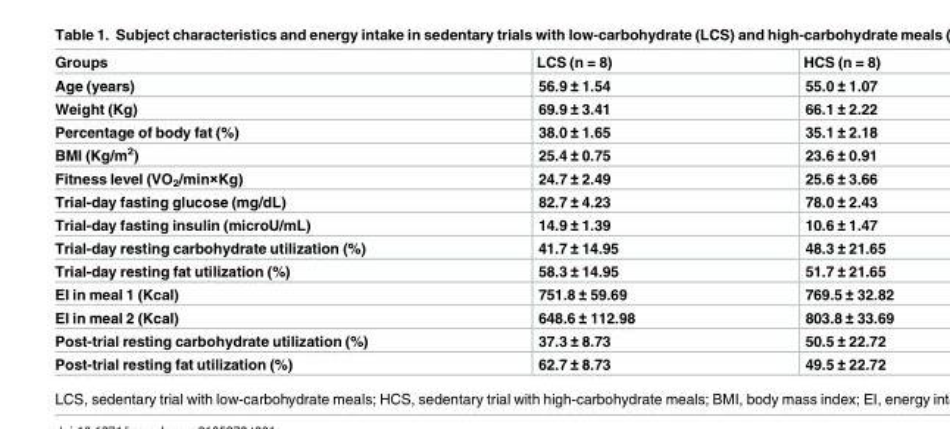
<table><thead><tr><td>Groups</td><td>LCS (n = 8)</td><td>HCS (n = 8)</td></tr></thead><tbody><tr><td>Age (years)</td><td>56.9 ± 1.54</td><td>55.0 ± 1.07</td></tr><tr><td>Weight (Kg)</td><td>69.9 ± 3.41</td><td>66.1 ± 2.22</td></tr><tr><td>Percentage of body fat (%)</td><td>38.0 ± 1.65</td><td>35.1 ± 2.18</td></tr><tr><td>BMI (Kg/m<sup>2</sup>)</td><td>25.4 ± 0.75</td><td>23.6 ± 0.91</td></tr><tr><td>Fitness level (VO<sub>2</sub>/min×Kg)</td><td>24.7 ± 2.49</td><td>25.6 ± 3.66</td></tr><tr><td>Trial-day fasting glucose (mg/dL)</td><td>82.7 ± 4.23</td><td>78.0 ± 2.43</td></tr><tr><td>Trial-day fasting insulin (microU/mL)</td><td>14.9 ± 1.39</td><td>10.6 ± 1.47</td></tr><tr><td>Trial-day resting carbohydrate utilization (%)</td><td>41.7 ± 14.95</td><td>48.3 ± 21.65</td></tr><tr><td>Trial-day resting fat utilization (%)</td><td>58.3 ± 14.95</td><td>51.7 ± 21.65</td></tr><tr><td>EI in meal 1 (Kcal)</td><td>751.8 ± 59.69</td><td>769.5 ± 32.82</td></tr><tr><td>EI in meal 2 (Kcal)</td><td>648.6 ± 112.98</td><td>803.8 ± 33.69</td></tr><tr><td>Post-trial resting carbohydrate utilization (%)</td><td>37.3 ± 8.73</td><td>50.5 ± 22.72</td></tr><tr><td>Post-trial resting fat utilization (%)</td><td>62.7 ± 8.73</td><td>49.5 ± 22.72</td></tr></tbody></table>